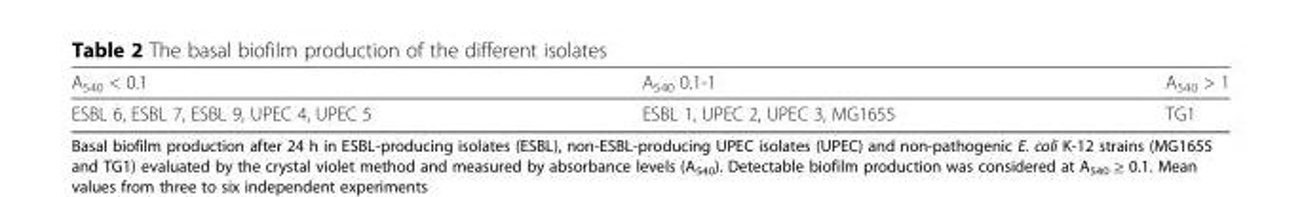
<table><thead><tr><td>A<sub>540</sub> &lt; 0.1</td><td>A<sub>540</sub> 0.1-1</td><td>A<sub>540</sub> &gt; 1</td></tr></thead><tbody><tr><td>ESBL 6, ESBL 7, ESBL 9, UPEC 4, UPEC 5</td><td>ESBL 1, UPEC 2, UPEC 3, MG1655</td><td>TG1</td></tr></tbody></table>